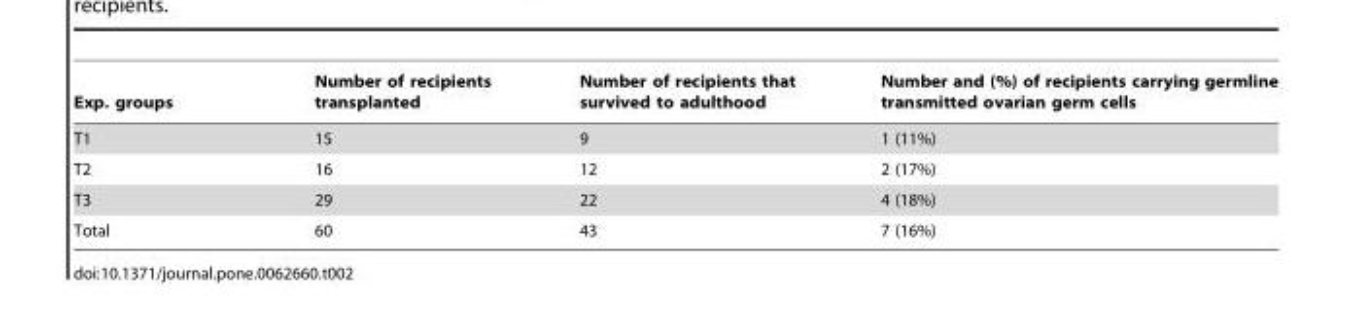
<table><thead><tr><td>Exp. groups</td><td>Number of recipients transplanted</td><td>Number of recipients that survived to adulthood</td><td>Number and (%) of recipients carrying germline transmitted ovarian germ cells</td></tr></thead><tbody><tr><td>T1</td><td>15</td><td>9</td><td>1 (11%)</td></tr><tr><td>T2</td><td>16</td><td>12</td><td>2 (17%)</td></tr><tr><td>T3</td><td>29</td><td>22</td><td>4 (18%)</td></tr><tr><td>Total</td><td>60</td><td>43</td><td>7 (16%)</td></tr></tbody></table>